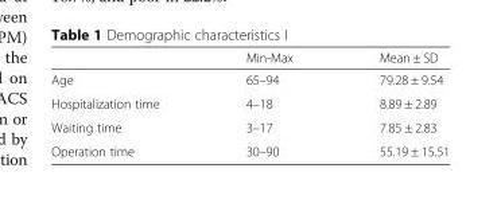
<table><thead><tr><td></td><td>Min-Max</td><td>Mean ± SD</td></tr></thead><tbody><tr><td>Age</td><td>65–94</td><td>79.28 ± 9.54</td></tr><tr><td>Hospitalization time</td><td>4–18</td><td>8.89 ± 2.89</td></tr><tr><td>Waiting time</td><td>3–17</td><td>7.85 ± 2.83</td></tr><tr><td>Operation time</td><td>30–90</td><td>55.19 ± 15.51</td></tr></tbody></table>